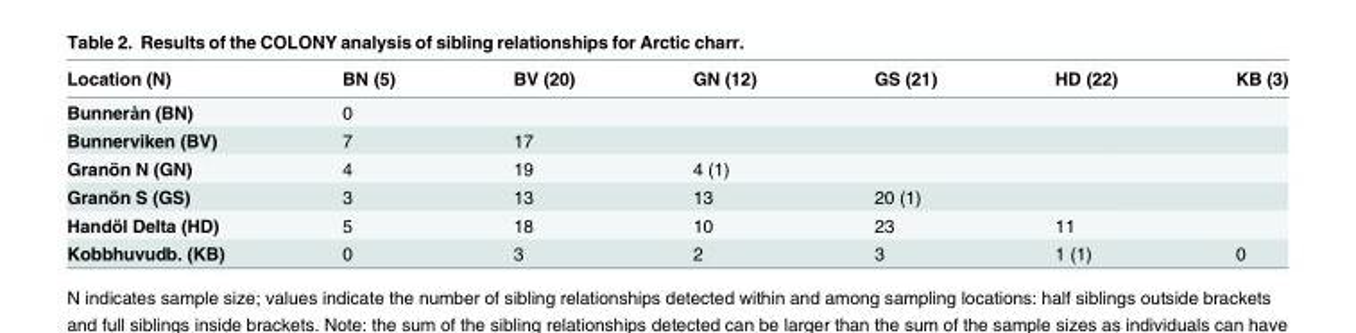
<table><thead><tr><td>Location (N)</td><td>BN (5)</td><td>BV (20)</td><td>GN (12)</td><td>GS (21)</td><td>HD (22)</td><td>KB (3)</td></tr></thead><tbody><tr><td>Bunnerån (BN)</td><td>0</td><td></td><td></td><td></td><td></td><td></td></tr><tr><td>Bunnerviken (BV)</td><td>7</td><td>17</td><td></td><td></td><td></td><td></td></tr><tr><td>Granön N (GN)</td><td>4</td><td>19</td><td>4 (1)</td><td></td><td></td><td></td></tr><tr><td>Granön S (GS)</td><td>3</td><td>13</td><td>13</td><td>20 (1)</td><td></td><td></td></tr><tr><td>Handöl Delta (HD)</td><td>5</td><td>18</td><td>10</td><td>23</td><td>11</td><td></td></tr><tr><td>Kobbhuvudb. (KB)</td><td>0</td><td>3</td><td>2</td><td>3</td><td>1 (1)</td><td>0</td></tr></tbody></table>